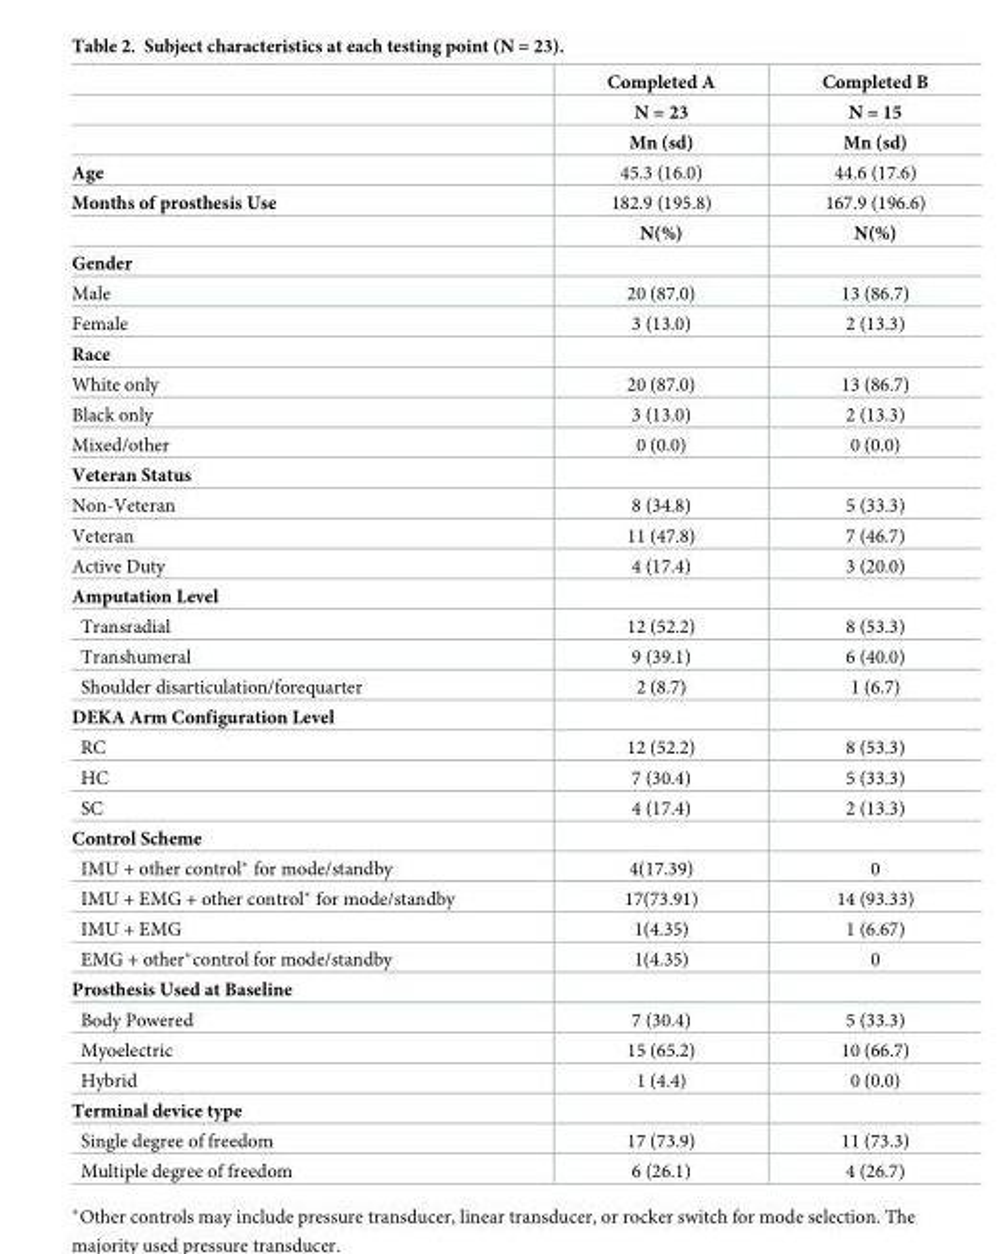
<table><thead><tr><td rowspan="3"></td><td rowspan="3">Completed A N = 23 Mn (sd)</td><td rowspan="3">Completed B N = 15 Mn (sd)</td></tr><tr></tr><tr></tr></thead><tbody><tr><td>Age</td><td>45.3 (16.0)</td><td>44.6 (17.6)</td></tr><tr><td rowspan="2">Months of prosthesis Use</td><td>182.9 (195.8)</td><td>167.9 (196.6)</td></tr><tr><td>N(%)</td><td>N(%)</td></tr><tr><td colspan="3">Gender</td></tr><tr><td>Male</td><td>20 (87.0)</td><td>13 (86.7)</td></tr><tr><td>Female</td><td>3 (13.0)</td><td>2 (13.3)</td></tr><tr><td colspan="3">Race</td></tr><tr><td>White only</td><td>20 (87.0)</td><td>13 (86.7)</td></tr><tr><td>Black only</td><td>3 (13.0)</td><td>2 (13.3)</td></tr><tr><td>Mixed/other</td><td>0 (0.0)</td><td>0 (0.0)</td></tr><tr><td colspan="3">Veteran Status</td></tr><tr><td>Non-Veteran</td><td>8 (34.8)</td><td>5 (33.3)</td></tr><tr><td>Veteran</td><td>11 (47.8)</td><td>7 (46.7)</td></tr><tr><td>Active Duty</td><td>4 (17.4)</td><td>3 (20.0)</td></tr><tr><td colspan="3">Amputation Level</td></tr><tr><td>Transradial</td><td>12 (52.2)</td><td>8 (53.3)</td></tr><tr><td>Transhumeral</td><td>9 (39.1)</td><td>6 (40.0)</td></tr><tr><td>Shoulder disarticulation/forequarter</td><td>2 (8.7)</td><td>1 (6.7)</td></tr><tr><td colspan="3">DEKA Arm Configuration Level</td></tr><tr><td>RC</td><td>12 (52.2)</td><td>8 (53.3)</td></tr><tr><td>HC</td><td>7 (30.4)</td><td>5 (33.3)</td></tr><tr><td>SC</td><td>4 (17.4)</td><td>2 (13.3)</td></tr><tr><td colspan="3">Control Scheme</td></tr><tr><td>IMU + other control* for mode/standby</td><td>4(17.39)</td><td>0</td></tr><tr><td>IMU + EMG + other control* for mode/standby</td><td>17(73.91)</td><td>14 (93.33)</td></tr><tr><td>IMU + EMG</td><td>1(4.35)</td><td>1 (6.67)</td></tr><tr><td>EMG + other*control for mode/standby</td><td>1(4.35)</td><td>0</td></tr><tr><td colspan="3">Prosthesis Used at Baseline</td></tr><tr><td>Body Powered</td><td>7 (30.4)</td><td>5 (33.3)</td></tr><tr><td>Myoelectric</td><td>15 (65.2)</td><td>10 (66.7)</td></tr><tr><td>Hybrid</td><td>1 (4.4)</td><td>0 (0.0)</td></tr><tr><td colspan="3">Terminal device type</td></tr><tr><td>Single degree of freedom</td><td>17 (73.9)</td><td>11 (73.3)</td></tr><tr><td>Multiple degree of freedom</td><td>6 (26.1)</td><td>4 (26.7)</td></tr></tbody></table>